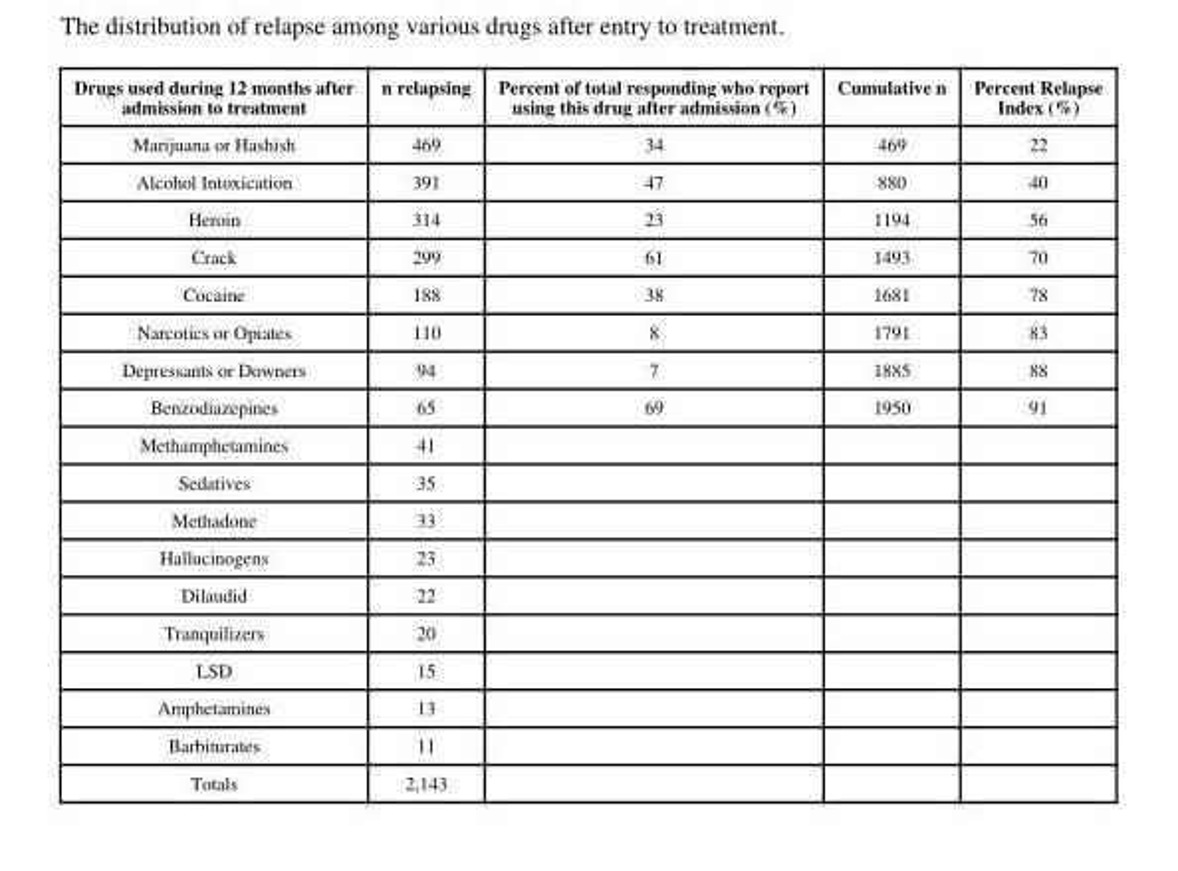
<table><thead><tr><td>Drugs used during 12 months after admission to treatment</td><td>n relapsing</td><td>Percent of total responding who report using this drug after admission (%)</td><td>Cumulative n</td><td>Percent Relapse Index (%)</td></tr></thead><tbody><tr><td>Marijuana or Hashish</td><td>469</td><td>34</td><td>469</td><td>22</td></tr><tr><td>Alcohol Intoxication</td><td>391</td><td>47</td><td>880</td><td>40</td></tr><tr><td>Heroin</td><td>314</td><td>23</td><td>1194</td><td>56</td></tr><tr><td>Crack</td><td>299</td><td>61</td><td>1493</td><td>70</td></tr><tr><td>Cocaine</td><td>188</td><td>38</td><td>1681</td><td>78</td></tr><tr><td>Narcotics or Opiates</td><td>110</td><td>8</td><td>1791</td><td>83</td></tr><tr><td>Depressants or Downers</td><td>94</td><td>7</td><td>1885</td><td>88</td></tr><tr><td>Benzodiazepines</td><td>65</td><td>69</td><td>1950</td><td>91</td></tr><tr><td>Methamphetamines</td><td>41</td><td></td><td></td><td></td></tr><tr><td>Sedatives</td><td>35</td><td></td><td></td><td></td></tr><tr><td>Methadone</td><td>33</td><td></td><td></td><td></td></tr><tr><td>Hallucinogens</td><td>23</td><td></td><td></td><td></td></tr><tr><td>Dilaudid</td><td>22</td><td></td><td></td><td></td></tr><tr><td>Tranquilizers</td><td>20</td><td></td><td></td><td></td></tr><tr><td>LSD</td><td>15</td><td></td><td></td><td></td></tr><tr><td>Amphetamines</td><td>13</td><td></td><td></td><td></td></tr><tr><td>Barbiturates</td><td>11</td><td></td><td></td><td></td></tr><tr><td>Totals</td><td>2,143</td><td></td><td></td><td></td></tr></tbody></table>